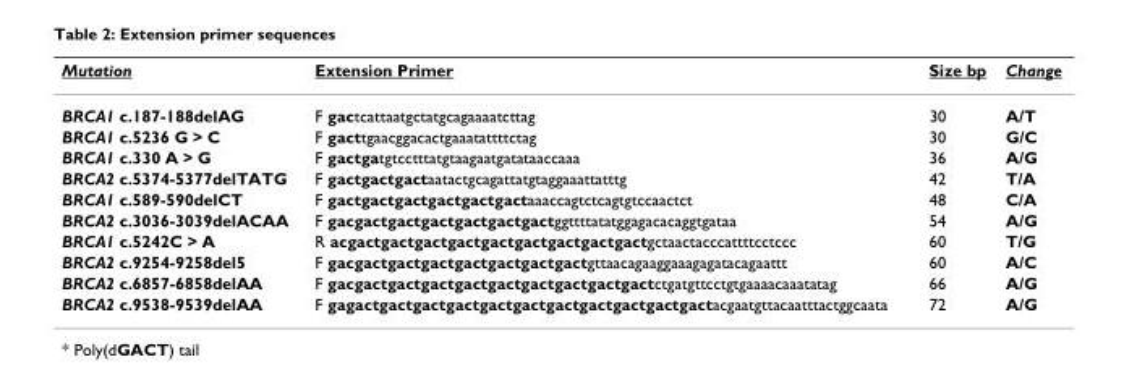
<table><thead><tr><td>Mutation</td><td>Extension Primer</td><td>Size bp</td><td>Change</td></tr></thead><tbody><tr><td>BRCA1 c.187-188delAG</td><td>F gactcattaatgctatgcagaaaatcttag</td><td>30</td><td>A/T</td></tr><tr><td>BRCA1 c.5236 G &gt; C</td><td>F gacttgaacggacactgaaatattttctag</td><td>30</td><td>G/C</td></tr><tr><td>BRCA1 c.330 A &gt; G</td><td>F gactgatgtcctttatgtaagaatgatataaccaaa</td><td>36</td><td>A/G</td></tr><tr><td>BRCA2 c.5374-5377delTATG</td><td>F gactgactgactaatactgcagattatgtaggaaattatttg</td><td>42</td><td>T/A</td></tr><tr><td>BRCA1 c.589-590delCT</td><td>F gactgactgactgactgactgactaaaccagtctcagtgtccaactct</td><td>48</td><td>C/A</td></tr><tr><td>BRCA2 c.3036-3039delACAA</td><td>F gacgactgactgactgactgactgactggttttatatggagacacaggtgataa</td><td>54</td><td>A/G</td></tr><tr><td>BRCA1 c.5242C &gt; A</td><td>R acgactgactgactgactgactgactgactgactgactgctaactacccattttcctccc</td><td>60</td><td>T/G</td></tr><tr><td>BRCA2 c.9254-9258del5</td><td>F gacgactgactgactgactgactgactgactgttaacagaaggaaagagatacagaattt</td><td>60</td><td>A/C</td></tr><tr><td>BRCA2 c.6857-6858delAA</td><td>F gacgactgactgactgactgactgactgactgactgactctgatgttcctgtgaaaacaaatatag</td><td>66</td><td>A/G</td></tr><tr><td>BRCA2 c.9538-9539delAA</td><td>F gagactgactgactgactgactgactgactgactgactgactgactacgaatgttacaatttactggcaata</td><td>72</td><td>A/G</td></tr></tbody></table>